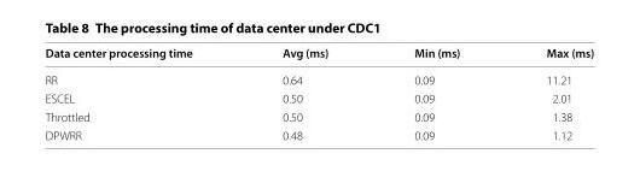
<table><thead><tr><td>Data center processing time</td><td>Avg (ms)</td><td>Min (ms)</td><td>Max (ms)</td></tr></thead><tbody><tr><td>RR</td><td>0.64</td><td>0.09</td><td>11.21</td></tr><tr><td>ESCEL</td><td>0.50</td><td>0.09</td><td>2.01</td></tr><tr><td>Throttled</td><td>0.50</td><td>0.09</td><td>1.38</td></tr><tr><td>DPWRR</td><td>0.48</td><td>0.09</td><td>1.12</td></tr></tbody></table>